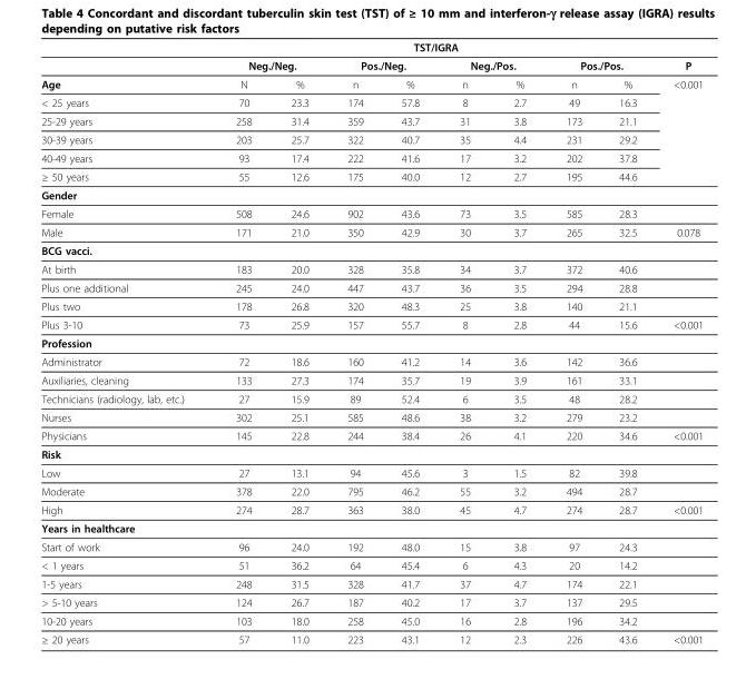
<table><thead><tr><td rowspan="3">Age</td><td colspan="8">TST/IGRA</td><td rowspan="3">P &lt;0.001</td></tr><tr><td colspan="2">Neg./Neg.</td><td colspan="2">Pos./Neg.</td><td colspan="2">Neg./Pos.</td><td colspan="2">Pos./Pos.</td></tr><tr><td>N</td><td>%</td><td>n</td><td>%</td><td>n</td><td>%</td><td>n</td><td>%</td></tr></thead><tbody><tr><td>&lt; 25 years</td><td>70</td><td>23.3</td><td>174</td><td>57.8</td><td>8</td><td>2.7</td><td>49</td><td>16.3</td><td></td></tr><tr><td>25-29 years</td><td>258</td><td>31.4</td><td>359</td><td>43.7</td><td>31</td><td>3.8</td><td>173</td><td>21.1</td><td></td></tr><tr><td>30-39 years</td><td>203</td><td>25.7</td><td>322</td><td>40.7</td><td>35</td><td>4.4</td><td>231</td><td>29.2</td><td></td></tr><tr><td>40-49 years</td><td>93</td><td>17.4</td><td>222</td><td>41.6</td><td>17</td><td>3.2</td><td>202</td><td>37.8</td><td></td></tr><tr><td>≥ 50 years</td><td>55</td><td>12.6</td><td>175</td><td>40.0</td><td>12</td><td>2.7</td><td>195</td><td>44.6</td><td></td></tr><tr><td colspan="10">Gender</td></tr><tr><td>Female</td><td>508</td><td>24.6</td><td>902</td><td>43.6</td><td>73</td><td>3.5</td><td>585</td><td>28.3</td><td></td></tr><tr><td>Male</td><td>171</td><td>21.0</td><td>350</td><td>42.9</td><td>30</td><td>3.7</td><td>265</td><td>32.5</td><td>0.078</td></tr><tr><td colspan="10">BCG vacci.</td></tr><tr><td>At birth</td><td>183</td><td>20.0</td><td>328</td><td>35.8</td><td>34</td><td>3.7</td><td>372</td><td>40.6</td><td></td></tr><tr><td>Plus one additional</td><td>245</td><td>24.0</td><td>447</td><td>43.7</td><td>36</td><td>3.5</td><td>294</td><td>28.8</td><td></td></tr><tr><td>Plus two</td><td>178</td><td>26.8</td><td>320</td><td>48.3</td><td>25</td><td>3.8</td><td>140</td><td>21.1</td><td></td></tr><tr><td>Plus 3-10</td><td>73</td><td>25.9</td><td>157</td><td>55.7</td><td>8</td><td>2.8</td><td>44</td><td>15.6</td><td>&lt;0.001</td></tr><tr><td colspan="10">Profession</td></tr><tr><td>Administrator</td><td>72</td><td>18.6</td><td>160</td><td>41.2</td><td>14</td><td>3.6</td><td>142</td><td>36.6</td><td></td></tr><tr><td>Auxiliaries, cleaning</td><td>133</td><td>27.3</td><td>174</td><td>35.7</td><td>19</td><td>3.9</td><td>161</td><td>33.1</td><td></td></tr><tr><td>Technicians (radiology, lab, etc.)</td><td>27</td><td>15.9</td><td>89</td><td>52.4</td><td>6</td><td>3.5</td><td>48</td><td>28.2</td><td></td></tr><tr><td>Nurses</td><td>302</td><td>25.1</td><td>585</td><td>48.6</td><td>38</td><td>3.2</td><td>279</td><td>23.2</td><td></td></tr><tr><td>Physicians</td><td>145</td><td>22.8</td><td>244</td><td>38.4</td><td>26</td><td>4.1</td><td>220</td><td>34.6</td><td>&lt;0.001</td></tr><tr><td colspan="10">Risk</td></tr><tr><td>Low</td><td>27</td><td>13.1</td><td>94</td><td>45.6</td><td>3</td><td>1.5</td><td>82</td><td>39.8</td><td></td></tr><tr><td>Moderate</td><td>378</td><td>22.0</td><td>795</td><td>46.2</td><td>55</td><td>3.2</td><td>494</td><td>28.7</td><td></td></tr><tr><td>High</td><td>274</td><td>28.7</td><td>363</td><td>38.0</td><td>45</td><td>4.7</td><td>274</td><td>28.7</td><td>&lt;0.001</td></tr><tr><td colspan="10">Years in healthcare</td></tr><tr><td>Start of work</td><td>96</td><td>24.0</td><td>192</td><td>48.0</td><td>15</td><td>3.8</td><td>97</td><td>24.3</td><td></td></tr><tr><td>&lt; 1 years</td><td>51</td><td>36.2</td><td>64</td><td>45.4</td><td>6</td><td>4.3</td><td>20</td><td>14.2</td><td></td></tr><tr><td>1-5 years</td><td>248</td><td>31.5</td><td>328</td><td>41.7</td><td>37</td><td>4.7</td><td>174</td><td>22.1</td><td></td></tr><tr><td>&gt; 5-10 years</td><td>124</td><td>26.7</td><td>187</td><td>40.2</td><td>17</td><td>3.7</td><td>137</td><td>29.5</td><td></td></tr><tr><td>10-20 years</td><td>103</td><td>18.0</td><td>258</td><td>45.0</td><td>16</td><td>2.8</td><td>196</td><td>34.2</td><td></td></tr><tr><td>≥ 20 years</td><td>57</td><td>11.0</td><td>223</td><td>43.1</td><td>12</td><td>2.3</td><td>226</td><td>43.6</td><td>&lt;0.001</td></tr></tbody></table>